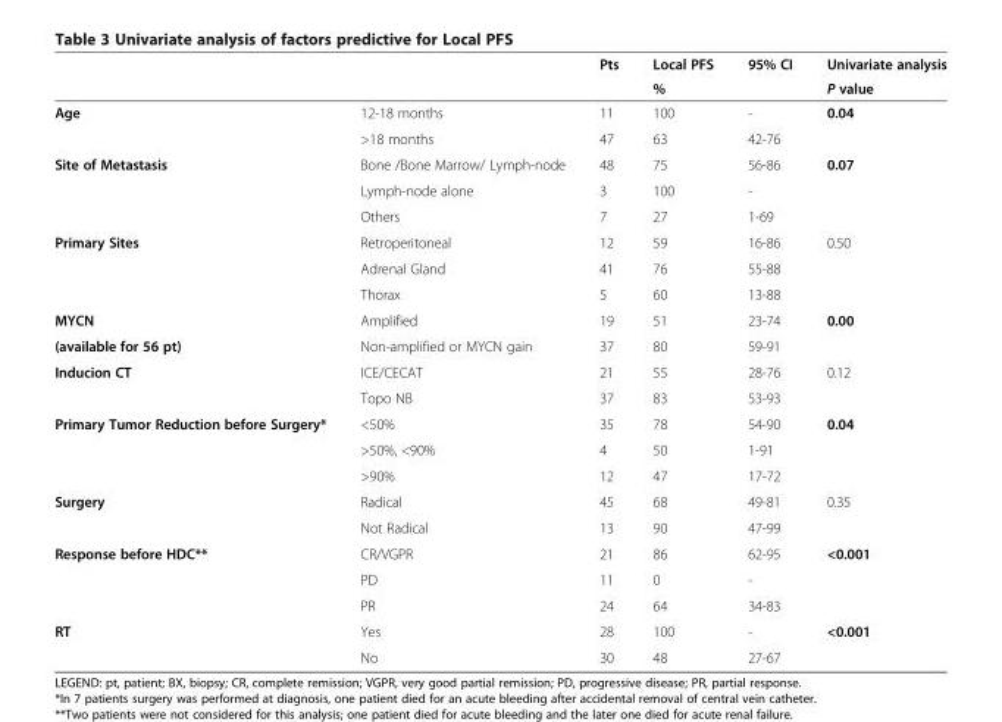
<table><thead><tr><td rowspan="2"></td><td rowspan="2"></td><td rowspan="2">Pts</td><td rowspan="2">Local PFS %</td><td rowspan="2">95% CI</td><td rowspan="2">Univariate analysis P value</td></tr><tr></tr></thead><tbody><tr><td rowspan="2">Age</td><td>12-18 months</td><td>11</td><td>100</td><td>-</td><td>0.04</td></tr><tr><td>&gt;18 months</td><td>47</td><td>63</td><td>42-76</td><td></td></tr><tr><td rowspan="3">Site of Metastasis</td><td>Bone /Bone Marrow/ Lymph-node</td><td>48</td><td>75</td><td>56-86</td><td>0.07</td></tr><tr><td>Lymph-node alone</td><td>3</td><td>100</td><td>-</td><td></td></tr><tr><td>Others</td><td>7</td><td>27</td><td>1-69</td><td></td></tr><tr><td rowspan="3">Primary Sites</td><td>Retroperitoneal</td><td>12</td><td>59</td><td>16-86</td><td>0.50</td></tr><tr><td>Adrenal Gland</td><td>41</td><td>76</td><td>55-88</td><td></td></tr><tr><td>Thorax</td><td>5</td><td>60</td><td>13-88</td><td></td></tr><tr><td>MYCN</td><td>Amplified</td><td>19</td><td>51</td><td>23-74</td><td>0.00</td></tr><tr><td>(available for 56 pt)</td><td>Non-amplified or MYCN gain</td><td>37</td><td>80</td><td>59-91</td><td></td></tr><tr><td rowspan="2">Inducion CT</td><td>ICE/CECAT</td><td>21</td><td>55</td><td>28-76</td><td>0.12</td></tr><tr><td>Topo NB</td><td>37</td><td>83</td><td>53-93</td><td></td></tr><tr><td rowspan="3">Primary Tumor Reduction before Surgery*</td><td>&lt;50%</td><td>35</td><td>78</td><td>54-90</td><td>0.04</td></tr><tr><td>&gt;50%, &lt;90%</td><td>4</td><td>50</td><td>1-91</td><td></td></tr><tr><td>&gt;90%</td><td>12</td><td>47</td><td>17-72</td><td></td></tr><tr><td rowspan="2">Surgery</td><td>Radical</td><td>45</td><td>68</td><td>49-81</td><td>0.35</td></tr><tr><td>Not Radical</td><td>13</td><td>90</td><td>47-99</td><td></td></tr><tr><td rowspan="3">Response before HDC**</td><td>CR/VGPR</td><td>21</td><td>86</td><td>62-95</td><td>&lt;0.001</td></tr><tr><td>PD</td><td>11</td><td>0</td><td>-</td><td></td></tr><tr><td>PR</td><td>24</td><td>64</td><td>34-83</td><td></td></tr><tr><td rowspan="2">RT</td><td>Yes</td><td>28</td><td>100</td><td>-</td><td rowspan="2">&lt;0.001</td></tr><tr><td>No</td><td>30</td><td>48</td><td>27-67</td></tr></tbody></table>